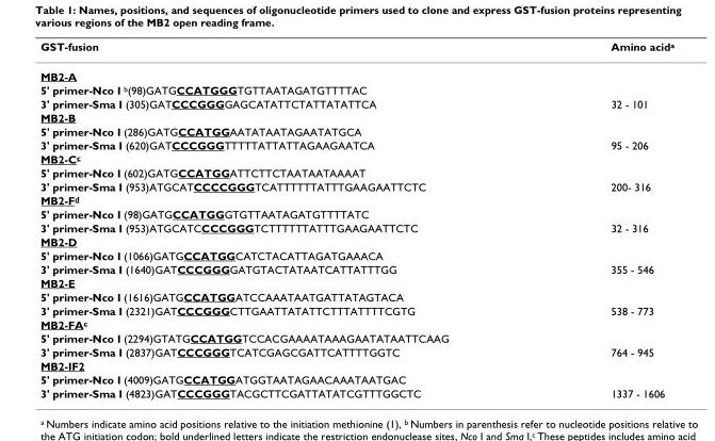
<table><thead><tr><td>GST-fusion</td><td>Amino acid<sup>a</sup></td></tr></thead><tbody><tr><td colspan="2">MB2-A</td></tr><tr><td colspan="2">5&#x27; primer-Nco I <sup>b</sup>(98)GATGCCATGGGTGTTAATAGATGTTTTAC</td></tr><tr><td>3&#x27; primer-Sma I (305)GATCCCGGGGAGCATATTCTATTATATTCA</td><td>32 - 101</td></tr><tr><td colspan="2">MB2-B</td></tr><tr><td colspan="2">5&#x27; primer-Nco I (286)GATGCCATGGAATATAATAGAATATGCA</td></tr><tr><td>3&#x27; primer-Sma I (620)GATCCCGGGTTTTTATTATTAGAAGAATCA</td><td>95 - 206</td></tr><tr><td colspan="2">MB2-Cc</td></tr><tr><td colspan="2">5&#x27; primer-Nco I (602)GATGCCATGGATTCTTCTAATAATAAAAT</td></tr><tr><td>3&#x27; primer-Sma I (953)ATGCATCCCCGGGTCATTTTTTATTTGAAGAATTCTC</td><td>200- 316</td></tr><tr><td colspan="2">MB2-Fd</td></tr><tr><td colspan="2">5&#x27; primer-Nco I (98)GATGCCATGGGTGTTAATAGATGTTTTATC</td></tr><tr><td>3&#x27; primer-Sma I (953)ATGCATCCCCGGGTCTTTTTTATTTGAAGAATTCTC</td><td>32 - 316</td></tr><tr><td colspan="2">MB2-D</td></tr><tr><td colspan="2">5&#x27; primer-Nco I (1066)GATGCCATGGCATCTACATTAGATGAAACA</td></tr><tr><td>3&#x27; primer-Sma I (1640)GATCCCGGGGATGTACTATAATCATTATTTGG</td><td>355 - 546</td></tr><tr><td colspan="2">MB2-E</td></tr><tr><td colspan="2">5&#x27; primer-Nco I (1616)GATGCCATGGATCCAAATAATGATTATAGTACA</td></tr><tr><td>3&#x27; primer-Sma I (2321)GATCCCGGGCTTGAATTATATTCTTTATTTTCGTG</td><td>538 - 773</td></tr><tr><td colspan="2">MB2-FAc</td></tr><tr><td colspan="2">5&#x27; primer-Nco I (2294)GTATGCCATGGTCCACGAAAATAAAGAATATAATTCAAG</td></tr><tr><td>3&#x27; primer-Sma I (2837)GATCCCGGGTCATCGAGCGATTCATTTTGGTC</td><td>764 - 945</td></tr><tr><td colspan="2">MB2-IF2</td></tr><tr><td colspan="2">5&#x27; primer-Nco I (4009)GATGCCATGGATGGTAATAGAACAAATAATGAC</td></tr><tr><td>3&#x27; primer-Sma I (4823)GATCCCGGGTACGCTTCGATTATATCGTTTGGCTC</td><td>1337 - 1606</td></tr></tbody></table>